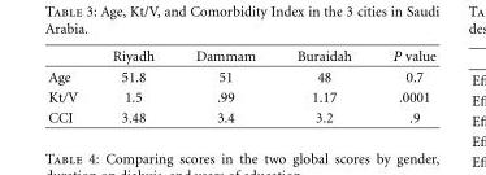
<table><thead><tr><td></td><td>Riyadh</td><td>Dammam</td><td>Buraidah</td><td>P value</td></tr></thead><tbody><tr><td>Age</td><td>51.8</td><td>51</td><td>48</td><td>0.7</td></tr><tr><td>Kt/V</td><td>1.5</td><td>.99</td><td>1.17</td><td>.0001</td></tr><tr><td>CCI</td><td>3.48</td><td>3.4</td><td>3.2</td><td>.9</td></tr></tbody></table>